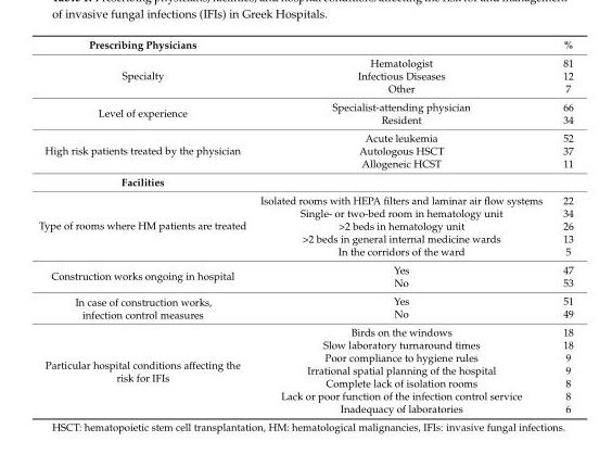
<table><thead><tr><td>Prescribing Physicians</td><td></td><td>%</td></tr></thead><tbody><tr><td rowspan="3">Specialty</td><td>Hematologist</td><td>81</td></tr><tr><td>Infectious Diseases</td><td>12</td></tr><tr><td>Other</td><td>7</td></tr><tr><td rowspan="2">Level of experience</td><td>Specialist-attending physician</td><td>66</td></tr><tr><td>Resident</td><td>34</td></tr><tr><td rowspan="3">High risk patients treated by the physician</td><td>Acute leukemia</td><td>52</td></tr><tr><td>Autologous HSCT</td><td>37</td></tr><tr><td>Allogeneic HCST</td><td>11</td></tr><tr><td colspan="3">Facilities</td></tr><tr><td rowspan="5">Type of rooms where HM patients are treated</td><td>Isolated rooms with HEPA filters and laminar air flow systems</td><td>22</td></tr><tr><td>Single- or two-bed room in hematology unit</td><td>34</td></tr><tr><td>&gt;2 beds in hematology unit</td><td>26</td></tr><tr><td>&gt;2 beds in general internal medicine wards</td><td>13</td></tr><tr><td>In the corridors of the ward</td><td>5</td></tr><tr><td rowspan="2">Construction works ongoing in hospital</td><td>Yes</td><td>47</td></tr><tr><td>No</td><td>53</td></tr><tr><td rowspan="2">In case of construction works, infection control measures</td><td>Yes</td><td>51</td></tr><tr><td>No</td><td>49</td></tr><tr><td rowspan="7">Particular hospital conditions affecting the risk for IFIs</td><td>Birds on the windows</td><td>18</td></tr><tr><td>Slow laboratory turnaround times</td><td>18</td></tr><tr><td>Poor compliance to hygiene rules</td><td>9</td></tr><tr><td>Irrational spatial planning of the hospital</td><td>9</td></tr><tr><td>Complete lack of isolation rooms</td><td>8</td></tr><tr><td>Lack or poor function of the infection control service</td><td>8</td></tr><tr><td>Inadequacy of laboratories</td><td>6</td></tr></tbody></table>